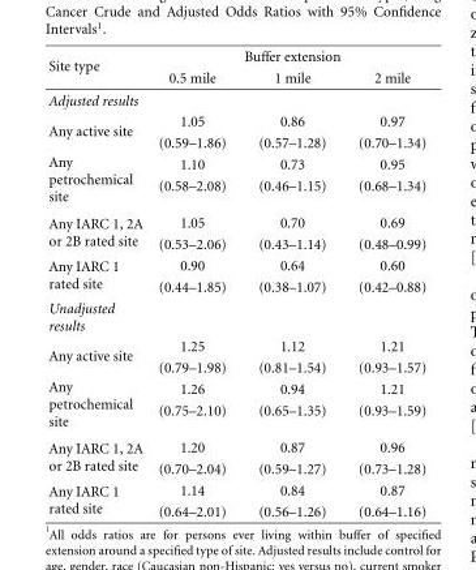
<table><thead><tr><td rowspan="2">Site type</td><td rowspan="2">0.5 mile</td><td rowspan="2">Buffer extension 1 mile</td><td rowspan="2">2 mile</td></tr><tr></tr></thead><tbody><tr><td colspan="4">Adjusted results</td></tr><tr><td rowspan="2">Any active site</td><td>1.05</td><td>0.86</td><td>0.97</td></tr><tr><td>(0.59–1.86)</td><td>(0.57–1.28)</td><td>(0.70–1.34)</td></tr><tr><td rowspan="2">Any petrochemical site</td><td>1.10</td><td>0.73</td><td>0.95</td></tr><tr><td>(0.58–2.08)</td><td>(0.46–1.15)</td><td>(0.68–1.34)</td></tr><tr><td rowspan="2">Any IARC 1, 2A or 2B rated site</td><td>1.05</td><td>0.70</td><td>0.69</td></tr><tr><td>(0.53–2.06)</td><td>(0.43–1.14)</td><td>(0.48–0.99)</td></tr><tr><td rowspan="2">Any IARC 1 rated site</td><td>0.90</td><td>0.64</td><td>0.60</td></tr><tr><td>(0.44–1.85)</td><td>(0.38–1.07)</td><td>(0.42–0.88)</td></tr><tr><td colspan="4">Unadjusted results</td></tr><tr><td rowspan="2">Any active site</td><td>1.25</td><td>1.12</td><td>1.21</td></tr><tr><td>(0.79–1.98)</td><td>(0.81–1.54)</td><td>(0.93–1.57)</td></tr><tr><td rowspan="2">Any petrochemical site</td><td>1.26</td><td>0.94</td><td>1.21</td></tr><tr><td>(0.75–2.10)</td><td>(0.65–1.35)</td><td>(0.93–1.59)</td></tr><tr><td rowspan="2">Any IARC 1, 2A or 2B rated site</td><td>1.20</td><td>0.87</td><td>0.96</td></tr><tr><td>(0.70–2.04)</td><td>(0.59–1.27)</td><td>(0.73–1.28)</td></tr><tr><td rowspan="2">Any IARC 1 rated site</td><td>1.14</td><td>0.84</td><td>0.87</td></tr><tr><td>(0.64–2.01)</td><td>(0.56–1.26)</td><td>(0.64–1.16)</td></tr></tbody></table>